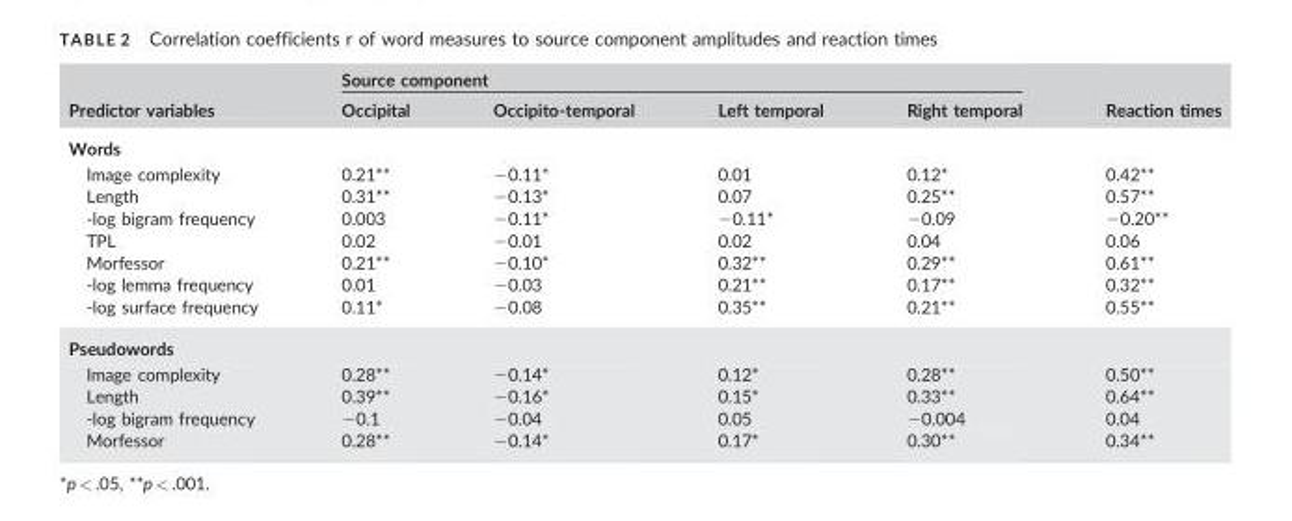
<table><thead><tr><td rowspan="2">Predictor variables</td><td colspan="4">Source component</td><td rowspan="2">Reaction times</td></tr><tr><td>Occipital</td><td>Occipito-temporal</td><td>Left temporal</td><td>Right temporal</td></tr></thead><tbody><tr><td colspan="6">Words</td></tr><tr><td>Image complexity</td><td>0.21**</td><td>−0.11*</td><td>0.01</td><td>0.12*</td><td>0.42**</td></tr><tr><td>Length</td><td>0.31**</td><td>−0.13*</td><td>0.07</td><td>0.25**</td><td>0.57**</td></tr><tr><td>-log bigram frequency</td><td>0.003</td><td>−0.11*</td><td>−0.11*</td><td>−0.09</td><td>−0.20**</td></tr><tr><td>TPL</td><td>0.02</td><td>−0.01</td><td>0.02</td><td>0.04</td><td>0.06</td></tr><tr><td>Morfessor</td><td>0.21**</td><td>−0.10*</td><td>0.32**</td><td>0.29**</td><td>0.61**</td></tr><tr><td>-log lemma frequency</td><td>0.01</td><td>−0.03</td><td>0.21**</td><td>0.17**</td><td>0.32**</td></tr><tr><td>-log surface frequency</td><td>0.11*</td><td>−0.08</td><td>0.35**</td><td>0.21**</td><td>0.55**</td></tr><tr><td colspan="6">Pseudowords</td></tr><tr><td>Image complexity</td><td>0.28**</td><td>−0.14*</td><td>0.12*</td><td>0.28**</td><td>0.50**</td></tr><tr><td>Length</td><td>0.39**</td><td>−0.16*</td><td>0.15*</td><td>0.33**</td><td>0.64**</td></tr><tr><td>-log bigram frequency</td><td>−0.1</td><td>−0.04</td><td>0.05</td><td>−0.004</td><td>0.04</td></tr><tr><td>Morfessor</td><td>0.28**</td><td>−0.14*</td><td>0.17*</td><td>0.30**</td><td>0.34**</td></tr></tbody></table>